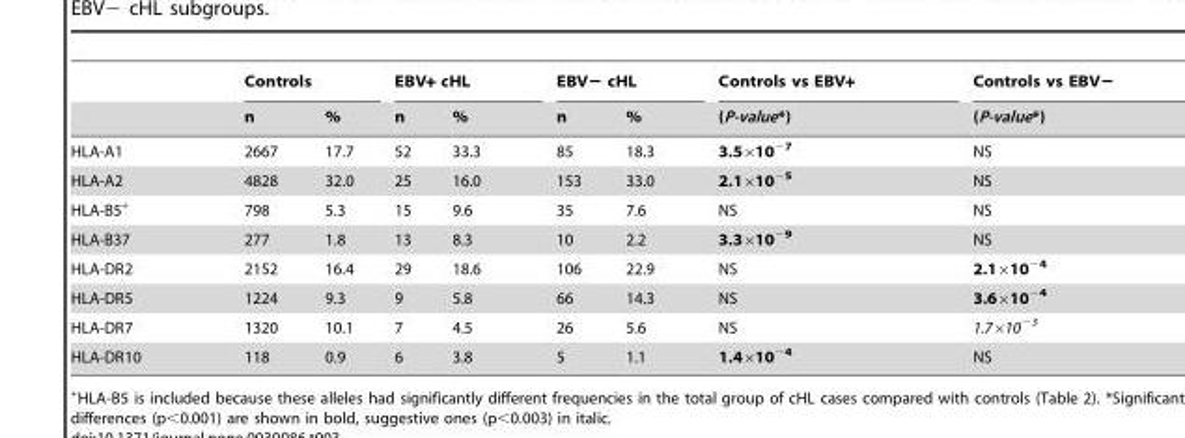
<table><thead><tr><td rowspan="2"></td><td colspan="2">Controls</td><td colspan="2">EBV+ cHL</td><td colspan="2">EBV− cHL</td><td rowspan="2">Controls vs EBV+ (P-value*)</td><td rowspan="2">Controls vs EBV− (P-value*)</td></tr><tr><td>n</td><td>%</td><td>n</td><td>%</td><td>n</td><td>%</td></tr></thead><tbody><tr><td>HLA-A1</td><td>2667</td><td>17.7</td><td>52</td><td>33.3</td><td>85</td><td>18.3</td><td>3.5×10<sup>−7</sup></td><td>NS</td></tr><tr><td>HLA-A2</td><td>4828</td><td>32.0</td><td>25</td><td>16.0</td><td>153</td><td>33.0</td><td>2.1×10<sup>−5</sup></td><td>NS</td></tr><tr><td>HLA-B5+</td><td>798</td><td>5.3</td><td>15</td><td>9.6</td><td>35</td><td>7.6</td><td>NS</td><td>NS</td></tr><tr><td>HLA-B37</td><td>277</td><td>1.8</td><td>13</td><td>8.3</td><td>10</td><td>2.2</td><td>3.3×10<sup>−9</sup></td><td>NS</td></tr><tr><td>HLA-DR2</td><td>2152</td><td>16.4</td><td>29</td><td>18.6</td><td>106</td><td>22.9</td><td>NS</td><td>2.1×10<sup>−4</sup></td></tr><tr><td>HLA-DR5</td><td>1224</td><td>9.3</td><td>9</td><td>5.8</td><td>66</td><td>14.3</td><td>NS</td><td>3.6×10<sup>−4</sup></td></tr><tr><td>HLA-DR7</td><td>1320</td><td>10.1</td><td>7</td><td>4.5</td><td>26</td><td>5.6</td><td>NS</td><td>1.7×10<sup>−3</sup></td></tr><tr><td>HLA-DR10</td><td>118</td><td>0.9</td><td>6</td><td>3.8</td><td>5</td><td>1.1</td><td>1.4×10<sup>−4</sup></td><td>NS</td></tr></tbody></table>